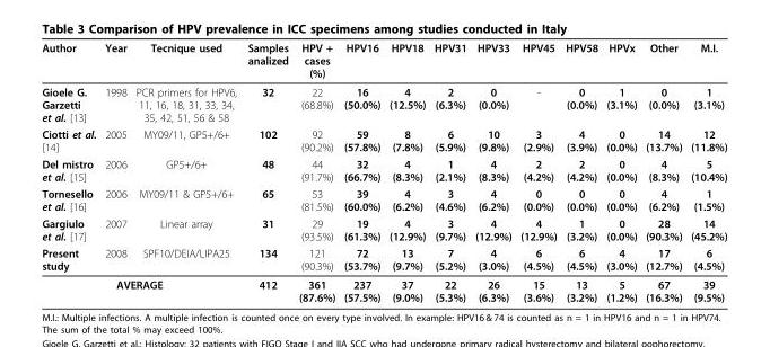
<table><thead><tr><td>Author</td><td>Year</td><td>Tecnique used</td><td>Samples analized</td><td>HPV + cases (%)</td><td>HPV16</td><td>HPV18</td><td>HPV31</td><td>HPV33</td><td>HPV45</td><td>HPV58</td><td>HPVx</td><td>Other</td><td>M.I.</td></tr></thead><tbody><tr><td>Gioele G. Garzetti et al. [13]</td><td>1998</td><td>PCR primers for HPV6, 11, 16, 18, 31, 33, 34, 35, 42, 51, 56 &amp; 58</td><td>32</td><td>22 (68.8%)</td><td>16 (50.0%)</td><td>4 (12.5%)</td><td>2 (6.3%)</td><td>0 (0.0%)</td><td>-</td><td>0 (0.0%)</td><td>1 (3.1%)</td><td>0 (0.0%)</td><td>1 (3.1%)</td></tr><tr><td>Ciotti et al. [14]</td><td>2005</td><td>MY09/11, GP5+/6+</td><td>102</td><td>92 (90.2%)</td><td>59 (57.8%)</td><td>8 (7.8%)</td><td>6 (5.9%)</td><td>10 (9.8%)</td><td>3 (2.9%)</td><td>4 (3.9%)</td><td>0 (0.0%)</td><td>14 (13.7%)</td><td>12 (11.8%)</td></tr><tr><td>Del mistro et al. [15]</td><td>2006</td><td>GP5+/6+</td><td>48</td><td>44 (91.7%)</td><td>32 (66.7%)</td><td>4 (8.3%)</td><td>1 (2.1%)</td><td>4 (8.3%)</td><td>2 (4.2%)</td><td>2 (4.2%)</td><td>0 (0.0%)</td><td>4 (8.3%)</td><td>5 (10.4%)</td></tr><tr><td>Tornesello et al. [16]</td><td>2006</td><td>MY09/11 &amp; GP5+/6+</td><td>65</td><td>53 (81.5%)</td><td>39 (60.0%)</td><td>4 (6.2%)</td><td>3 (4.6%)</td><td>4 (6.2%)</td><td>0 (0.0%)</td><td>0 (0.0%)</td><td>0 (0.0%)</td><td>4 (6.2%)</td><td>1 (1.5%)</td></tr><tr><td>Gargiulo et al. [17]</td><td>2007</td><td>Linear array</td><td>31</td><td>29 (93.5%)</td><td>19 (61.3%)</td><td>4 (12.9%)</td><td>3 (9.7%)</td><td>4 (12.9%)</td><td>4 (12.9%)</td><td>1 (3.2%)</td><td>0 (0.0%)</td><td>28 (90.3%)</td><td>14 (45.2%)</td></tr><tr><td>Present study</td><td>2008</td><td>SPF10/DEIA/LIPA25</td><td>134</td><td>121 (90.3%)</td><td>72 (53.7%)</td><td>13 (9.7%)</td><td>7 (5.2%)</td><td>4 (3.0%)</td><td>6 (4.5%)</td><td>6 (4.5%)</td><td>4 (3.0%)</td><td>17 (12.7%)</td><td>6 (4.5%)</td></tr><tr><td colspan="3">AVERAGE</td><td>412</td><td>361 (87.6%)</td><td>237 (57.5%)</td><td>37 (9.0%)</td><td>22 (5.3%)</td><td>26 (6.3%)</td><td>15 (3.6%)</td><td>13 (3.2%)</td><td>5 (1.2%)</td><td>67 (16.3%)</td><td>39 (9.5%)</td></tr></tbody></table>